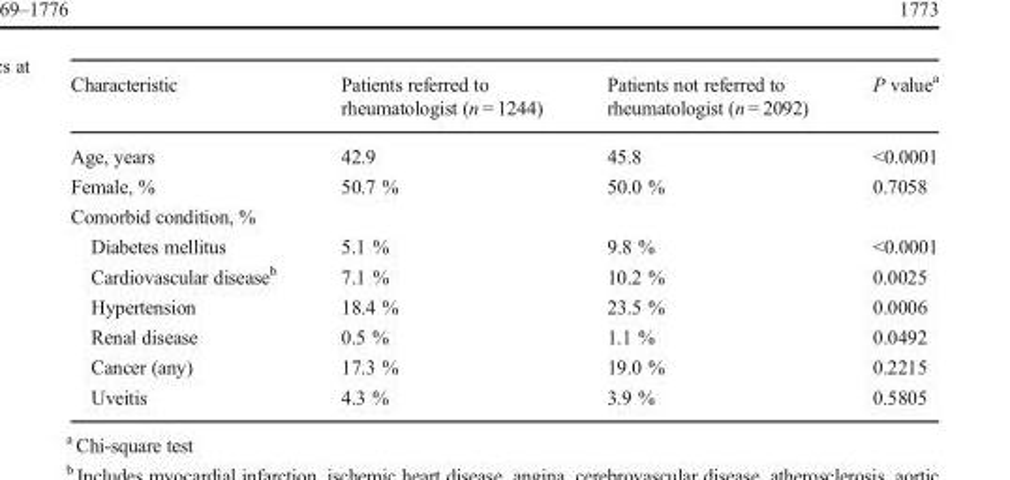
<table><thead><tr><td>Characteristic</td><td>Patients referred to rheumatologist (n = 1244)</td><td>Patients not referred to rheumatologist (n = 2092)</td><td>P value<sup>a</sup></td></tr></thead><tbody><tr><td>Age, years</td><td>42.9</td><td>45.8</td><td>&lt;0.0001</td></tr><tr><td>Female, %</td><td>50.7 %</td><td>50.0 %</td><td>0.7058</td></tr><tr><td colspan="4">Comorbid condition, %</td></tr><tr><td>Diabetes mellitus</td><td>5.1 %</td><td>9.8 %</td><td>&lt;0.0001</td></tr><tr><td>Cardiovascular disease<sup>b</sup></td><td>7.1 %</td><td>10.2 %</td><td>0.0025</td></tr><tr><td>Hypertension</td><td>18.4 %</td><td>23.5 %</td><td>0.0006</td></tr><tr><td>Renal disease</td><td>0.5 %</td><td>1.1 %</td><td>0.0492</td></tr><tr><td>Cancer (any)</td><td>17.3 %</td><td>19.0 %</td><td>0.2215</td></tr><tr><td>Uveitis</td><td>4.3 %</td><td>3.9 %</td><td>0.5805</td></tr></tbody></table>